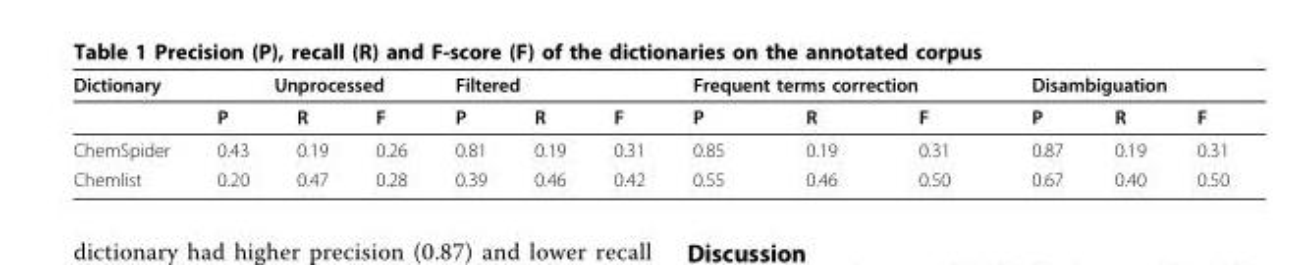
<table><thead><tr><td rowspan="2">Dictionary</td><td colspan="3">Unprocessed</td><td colspan="3">Filtered</td><td colspan="3">Frequent terms correction</td><td colspan="3">Disambiguation</td></tr><tr><td>P</td><td>R</td><td>F</td><td>P</td><td>R</td><td>F</td><td>P</td><td>R</td><td>F</td><td>P</td><td>R</td><td>F</td></tr></thead><tbody><tr><td>ChemSpider</td><td>0.43</td><td>0.19</td><td>0.26</td><td>0.81</td><td>0.19</td><td>0.31</td><td>0.85</td><td>0.19</td><td>0.31</td><td>0.87</td><td>0.19</td><td>0.31</td></tr><tr><td>Chemlist</td><td>0.20</td><td>0.47</td><td>0.28</td><td>0.39</td><td>0.46</td><td>0.42</td><td>0.55</td><td>0.46</td><td>0.50</td><td>0.67</td><td>0.40</td><td>0.50</td></tr></tbody></table>